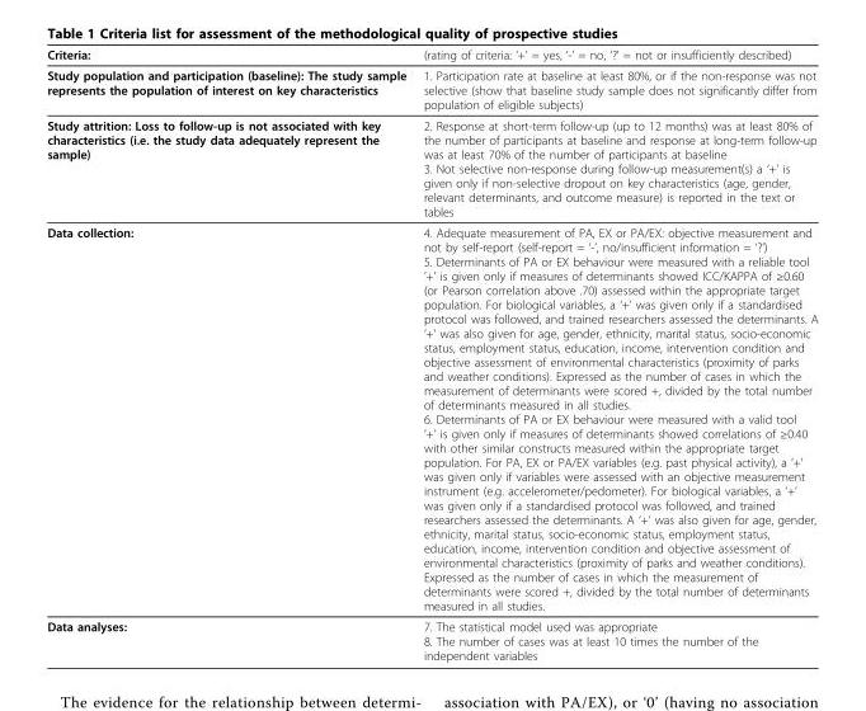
<table><thead><tr><td>Criteria:</td><td>(rating of criteria: ‘+’ = yes, ‘-’ = no, ‘?’ = not or insufficiently described)</td></tr></thead><tbody><tr><td>Study population and participation (baseline): The study sample represents the population of interest on key characteristics</td><td>1. Participation rate at baseline at least 80%, or if the non-response was not selective (show that baseline study sample does not significantly differ from population of eligible subjects)</td></tr><tr><td>Study attrition: Loss to follow-up is not associated with key characteristics (i.e. the study data adequately represent the sample)</td><td>2. Response at short-term follow-up (up to 12 months) was at least 80% of the number of participants at baseline and response at long-term follow-up was at least 70% of the number of participants at baseline 3. Not selective non-response during follow-up measurement(s) a ‘+’ is given only if non-selective dropout on key characteristics (age, gender, relevant determinants, and outcome measure) is reported in the text or tables</td></tr><tr><td>Data collection:</td><td>4. Adequate measurement of PA, EX or PA/EX: objective measurement and not by self-report (self-report = ‘-’, no/insufficient information = ‘?’) 5. Determinants of PA or EX behaviour were measured with a reliable tool ’+’ is given only if measures of determinants showed ICC/KAPPA of ≥0.60 (or Pearson correlation above .70) assessed within the appropriate target population. For biological variables, a ‘+’ was given only if a standardised protocol was followed, and trained researchers assessed the determinants. A ‘+’ was also given for age, gender, ethnicity, marital status, socio-economic status, employment status, education, income, intervention condition and objective assessment of environmental characteristics (proximity of parks and weather conditions). Expressed as the number of cases in which the measurement of determinants were scored +, divided by the total number of determinants measured in all studies. 6. Determinants of PA or EX behaviour were measured with a valid tool ’+’ is given only if measures of determinants showed correlations of ≥0.40 with other similar constructs measured within the appropriate target population. For PA, EX or PA/EX variables (e.g. past physical activity), a ‘+’ was given only if variables were assessed with an objective measurement instrument (e.g. accelerometer/pedometer). For biological variables, a ‘+’ was given only if a standardised protocol was followed, and trained researchers assessed the determinants. A ‘+’ was also given for age, gender, ethnicity, marital status, socio-economic status, employment status, education, income, intervention condition and objective assessment of environmental characteristics (proximity of parks and weather conditions). Expressed as the number of cases in which the measurement of determinants were scored +, divided by the total number of determinants measured in all studies.</td></tr><tr><td>Data analyses:</td><td>7. The statistical model used was appropriate 8. The number of cases was at least 10 times the number of the independent variables</td></tr></tbody></table>